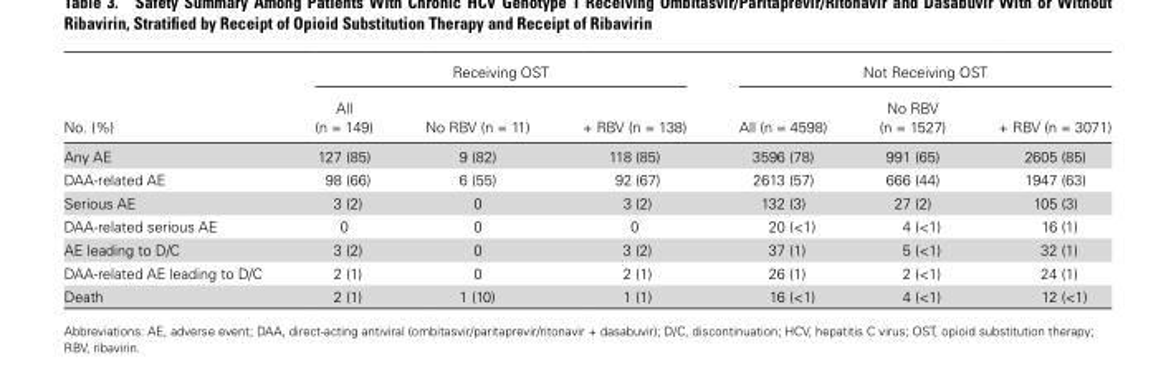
<table><thead><tr><td rowspan="2">No. (%)</td><td colspan="3">Receiving OST</td><td colspan="3">Not Receiving OST</td></tr><tr><td>All (n = 149)</td><td>No RBV (n = 11)</td><td>+ RBV (n = 138)</td><td>All (n = 4598)</td><td>No RBV (n = 1527)</td><td>+ RBV (n = 3071)</td></tr></thead><tbody><tr><td>Any AE</td><td>127 (85)</td><td>9 (82)</td><td>118 (85)</td><td>3596 (78)</td><td>991 (65)</td><td>2605 (85)</td></tr><tr><td>DAA-related AE</td><td>98 (66)</td><td>6 (55)</td><td>92 (67)</td><td>2613 (57)</td><td>666 (44)</td><td>1947 (63)</td></tr><tr><td>Serious AE</td><td>3 (2)</td><td>0</td><td>3 (2)</td><td>132 (3)</td><td>27 (2)</td><td>105 (3)</td></tr><tr><td>DAA-related serious AE</td><td>0</td><td>0</td><td>0</td><td>20 (&lt;1)</td><td>4 (&lt;1)</td><td>16 (1)</td></tr><tr><td>AE leading to D/C</td><td>3 (2)</td><td>0</td><td>3 (2)</td><td>37 (1)</td><td>5 (&lt;1)</td><td>32 (1)</td></tr><tr><td>DAA-related AE leading to D/C</td><td>2 (1)</td><td>0</td><td>2 (1)</td><td>26 (1)</td><td>2 (&lt;1)</td><td>24 (1)</td></tr><tr><td>Death</td><td>2 (1)</td><td>1 (10)</td><td>1 (1)</td><td>16 (&lt;1)</td><td>4 (&lt;1)</td><td>12 (&lt;1)</td></tr></tbody></table>